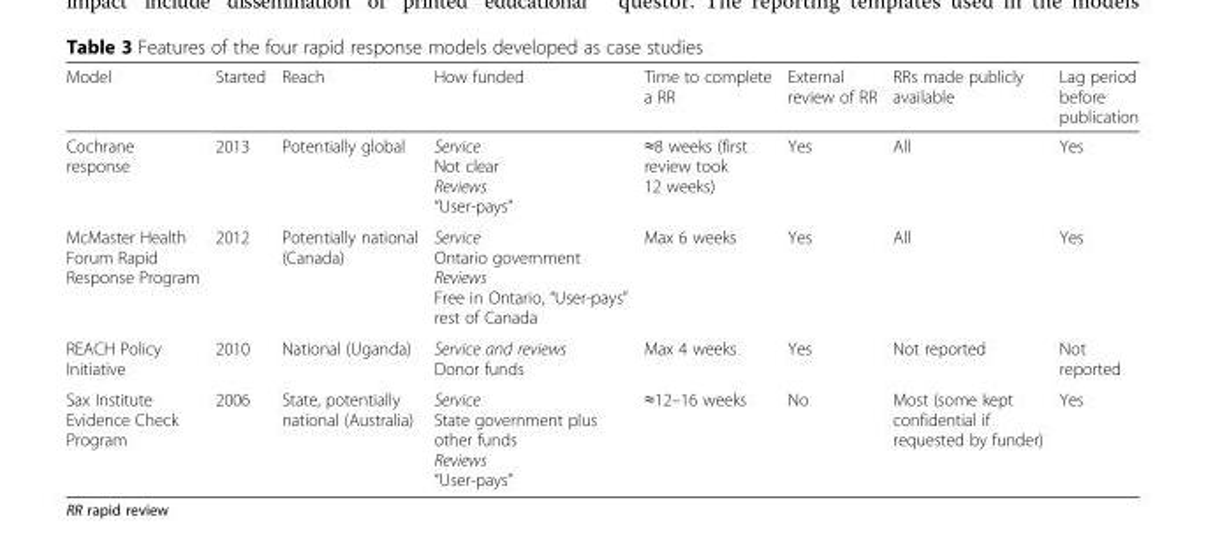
<table><thead><tr><td>Model</td><td>Started</td><td>Reach</td><td>How funded</td><td>Time to complete a RR</td><td>External review of RR</td><td>RRs made publicly available</td><td>Lag period before publication</td></tr></thead><tbody><tr><td>Cochrane response</td><td>2013</td><td>Potentially global</td><td>Service Not clear Reviews “User-pays”</td><td>≈8 weeks (first review took 12 weeks)</td><td>Yes</td><td>All</td><td>Yes</td></tr><tr><td>McMaster Health Forum Rapid Response Program</td><td>2012</td><td>Potentially national (Canada)</td><td>Service Ontario government Reviews Free in Ontario, “User-pays” rest of Canada</td><td>Max 6 weeks</td><td>Yes</td><td>All</td><td>Yes</td></tr><tr><td>REACH Policy Initiative</td><td>2010</td><td>National (Uganda)</td><td>Service and reviews Donor funds</td><td>Max 4 weeks</td><td>Yes</td><td>Not reported</td><td>Not reported</td></tr><tr><td>Sax Institute Evidence Check Program</td><td>2006</td><td>State, potentially national (Australia)</td><td>Service State government plus other funds Reviews “User-pays”</td><td>≈12–16 weeks</td><td>No</td><td>Most (some kept confidential if requested by funder)</td><td>Yes</td></tr></tbody></table>